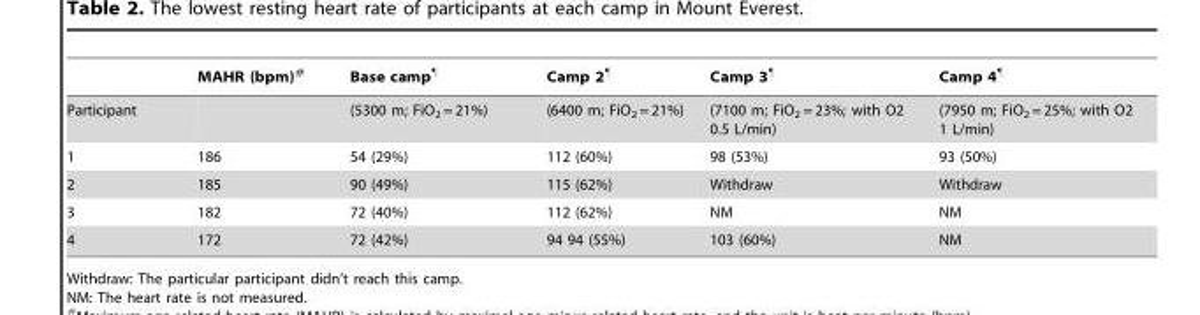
<table><thead><tr><td></td><td>MAHR (bpm)#</td><td>Base camp¶</td><td>Camp 2¶</td><td>Camp 3¶</td><td>Camp 4¶</td></tr></thead><tbody><tr><td>Participant</td><td></td><td>(5300 m; FiO<sub>2</sub> = 21%)</td><td>(6400 m; FiO<sub>2</sub> = 21%)</td><td>(7100 m; FiO<sub>2</sub> = 23%; with O2 0.5 L/min)</td><td>(7950 m; FiO<sub>2</sub> = 25%; with O2 1 L/min)</td></tr><tr><td>1</td><td>186</td><td>54 (29%)</td><td>112 (60%)</td><td>98 (53%)</td><td>93 (50%)</td></tr><tr><td>2</td><td>185</td><td>90 (49%)</td><td>115 (62%)</td><td>Withdraw</td><td>Withdraw</td></tr><tr><td>3</td><td>182</td><td>72 (40%)</td><td>112 (62%)</td><td>NM</td><td>NM</td></tr><tr><td>4</td><td>172</td><td>72 (42%)</td><td>94 94 (55%)</td><td>103 (60%)</td><td>NM</td></tr></tbody></table>